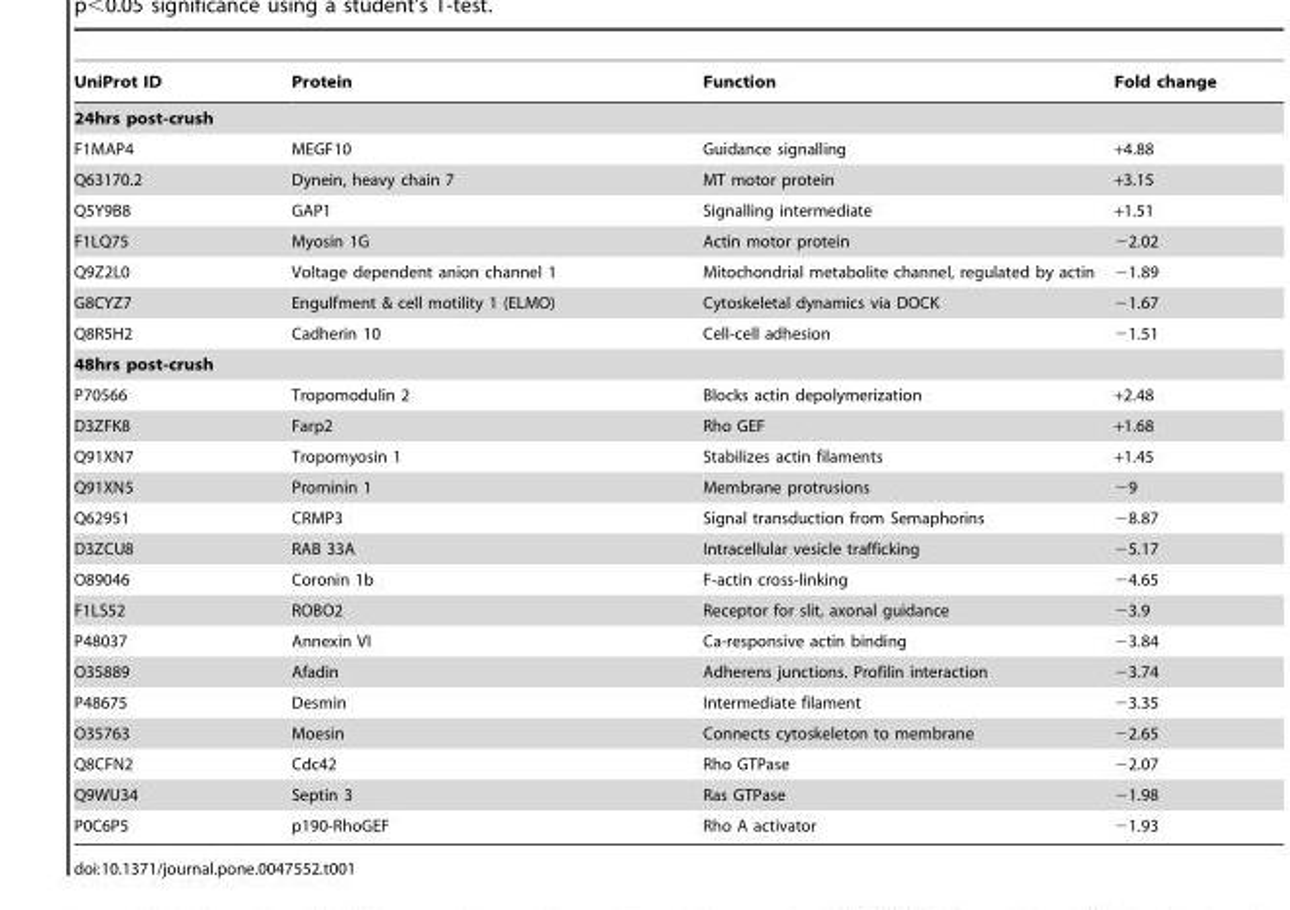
<table><thead><tr><td>UniProt ID</td><td>Protein</td><td>Function</td><td>Fold change</td></tr></thead><tbody><tr><td colspan="4">24hrs post-crush</td></tr><tr><td>F1MAP4</td><td>MEGF10</td><td>Guidance signalling</td><td>+4.88</td></tr><tr><td>Q63170.2</td><td>Dynein, heavy chain 7</td><td>MT motor protein</td><td>+3.15</td></tr><tr><td>Q5Y9B8</td><td>GAP1</td><td>Signalling intermediate</td><td>+1.51</td></tr><tr><td>F1LQ75</td><td>Myosin 1G</td><td>Actin motor protein</td><td>−2.02</td></tr><tr><td>Q9Z2L0</td><td>Voltage dependent anion channel 1</td><td>Mitochondrial metabolite channel, regulated by actin</td><td>−1.89</td></tr><tr><td>G8CYZ7</td><td>Engulfment &amp; cell motility 1 (ELMO)</td><td>Cytoskeletal dynamics via DOCK</td><td>−1.67</td></tr><tr><td>Q8R5H2</td><td>Cadherin 10</td><td>Cell-cell adhesion</td><td>−1.51</td></tr><tr><td colspan="4">48hrs post-crush</td></tr><tr><td>P70566</td><td>Tropomodulin 2</td><td>Blocks actin depolymerization</td><td>+2.48</td></tr><tr><td>D3ZFK8</td><td>Farp2</td><td>Rho GEF</td><td>+1.68</td></tr><tr><td>Q91XN7</td><td>Tropomyosin 1</td><td>Stabilizes actin filaments</td><td>+1.45</td></tr><tr><td>Q91XN5</td><td>Prominin 1</td><td>Membrane protrusions</td><td>−9</td></tr><tr><td>Q62951</td><td>CRMP3</td><td>Signal transduction from Semaphorins</td><td>−8.87</td></tr><tr><td>D3ZCU8</td><td>RAB 33A</td><td>Intracellular vesicle trafficking</td><td>−5.17</td></tr><tr><td>O89046</td><td>Coronin 1b</td><td>F-actin cross-linking</td><td>−4.65</td></tr><tr><td>F1LS52</td><td>ROBO2</td><td>Receptor for slit, axonal guidance</td><td>−3.9</td></tr><tr><td>P48037</td><td>Annexin VI</td><td>Ca-responsive actin binding</td><td>−3.84</td></tr><tr><td>O35889</td><td>Afadin</td><td>Adherens junctions. Profilin interaction</td><td>−3.74</td></tr><tr><td>P48675</td><td>Desmin</td><td>Intermediate filament</td><td>−3.35</td></tr><tr><td>O35763</td><td>Moesin</td><td>Connects cytoskeleton to membrane</td><td>−2.65</td></tr><tr><td>Q8CFN2</td><td>Cdc42</td><td>Rho GTPase</td><td>−2.07</td></tr><tr><td>Q9WU34</td><td>Septin 3</td><td>Ras GTPase</td><td>−1.98</td></tr><tr><td>P0C6P5</td><td>p190-RhoGEF</td><td>Rho A activator</td><td>−1.93</td></tr></tbody></table>